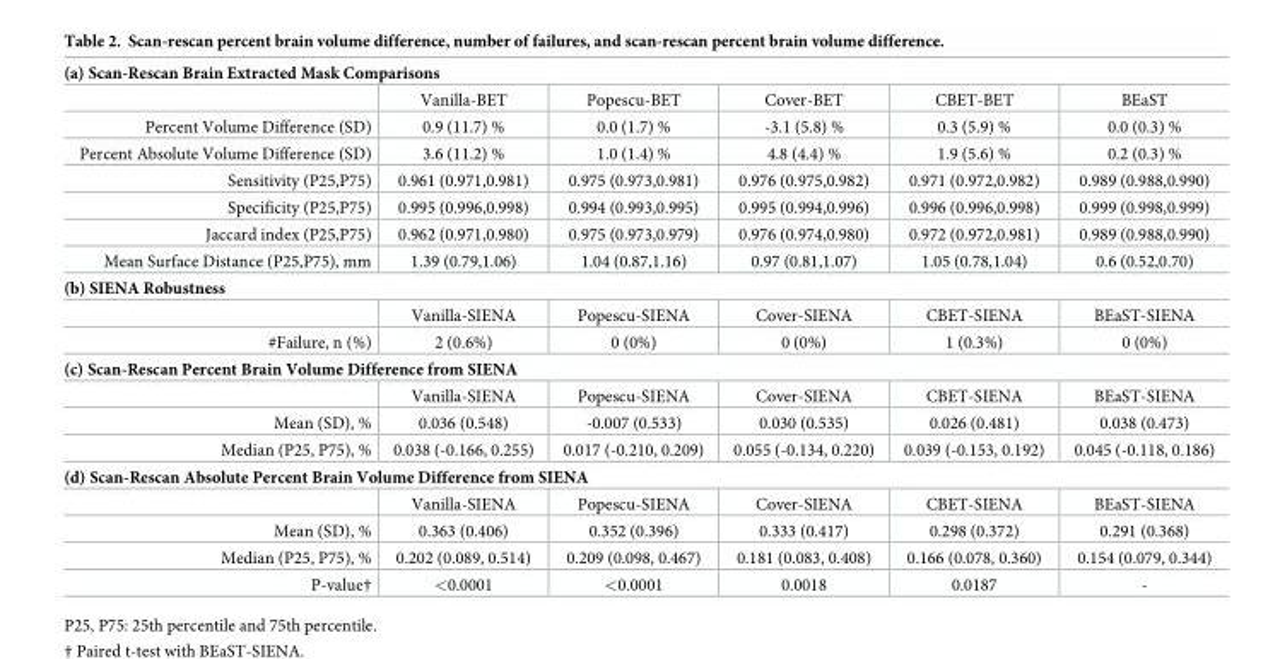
<table><tbody><tr><td colspan="6">(a) Scan-Rescan Brain Extracted Mask Comparisons</td></tr><tr><td></td><td>Vanilla-BET</td><td>Popescu-BET</td><td>Cover-BET</td><td>CBET-BET</td><td>BEaST</td></tr><tr><td>Percent Volume Difference (SD)</td><td>0.9 (11.7) %</td><td>0.0 (1.7) %</td><td>-3.1 (5.8) %</td><td>0.3 (5.9) %</td><td>0.0 (0.3) %</td></tr><tr><td>Percent Absolute Volume Difference (SD)</td><td>3.6 (11.2) %</td><td>1.0 (1.4) %</td><td>4.8 (4.4) %</td><td>1.9 (5.6) %</td><td>0.2 (0.3) %</td></tr><tr><td>Sensitivity (P25,P75)</td><td>0.961 (0.971,0.981)</td><td>0.975 (0.973,0.981)</td><td>0.976 (0.975,0.982)</td><td>0.971 (0.972,0.982)</td><td>0.989 (0.988,0.990)</td></tr><tr><td>Specificity (P25,P75)</td><td>0.995 (0.996,0.998)</td><td>0.994 (0.993,0.995)</td><td>0.995 (0.994,0.996)</td><td>0.996 (0.996,0.998)</td><td>0.999 (0.998,0.999)</td></tr><tr><td>Jaccard index (P25,P75)</td><td>0.962 (0.971,0.980)</td><td>0.975 (0.973,0.979)</td><td>0.976 (0.974,0.980)</td><td>0.972 (0.972,0.981)</td><td>0.989 (0.988,0.990)</td></tr><tr><td>Mean Surface Distance (P25,P75), mm</td><td>1.39 (0.79,1.06)</td><td>1.04 (0.87,1.16)</td><td>0.97 (0.81,1.07)</td><td>1.05 (0.78,1.04)</td><td>0.6 (0.52,0.70)</td></tr><tr><td colspan="6">(b) SIENA Robustness</td></tr><tr><td></td><td>Vanilla-SIENA</td><td>Popescu-SIENA</td><td>Cover-SIENA</td><td>CBET-SIENA</td><td>BEaST-SIENA</td></tr><tr><td>#Failure, n (%)</td><td>2 (0.6%)</td><td>0 (0%)</td><td>0 (0%)</td><td>1 (0.3%)</td><td>0 (0%)</td></tr><tr><td colspan="6">(c) Scan-Rescan Percent Brain Volume Difference from SIENA</td></tr><tr><td></td><td>Vanilla-SIENA</td><td>Popescu-SIENA</td><td>Cover-SIENA</td><td>CBET-SIENA</td><td>BEaST-SIENA</td></tr><tr><td>Mean (SD), %</td><td>0.036 (0.548)</td><td>-0.007 (0.533)</td><td>0.030 (0.535)</td><td>0.026 (0.481)</td><td>0.038 (0.473)</td></tr><tr><td>Median (P25, P75), %</td><td>0.038 (-0.166, 0.255)</td><td>0.017 (-0.210, 0.209)</td><td>0.055 (-0.134, 0.220)</td><td>0.039 (-0.153, 0.192)</td><td>0.045 (-0.118, 0.186)</td></tr><tr><td colspan="6">(d) Scan-Rescan Absolute Percent Brain Volume Difference from SIENA</td></tr><tr><td></td><td>Vanilla-SIENA</td><td>Popescu-SIENA</td><td>Cover-SIENA</td><td>CBET-SIENA</td><td>BEaST-SIENA</td></tr><tr><td>Mean (SD), %</td><td>0.363 (0.406)</td><td>0.352 (0.396)</td><td>0.333 (0.417)</td><td>0.298 (0.372)</td><td>0.291 (0.368)</td></tr><tr><td>Median (P25, P75), %</td><td>0.202 (0.089, 0.514)</td><td>0.209 (0.098, 0.467)</td><td>0.181 (0.083, 0.408)</td><td>0.166 (0.078, 0.360)</td><td>0.154 (0.079, 0.344)</td></tr><tr><td>P-value†</td><td>&lt;0.0001</td><td>&lt;0.0001</td><td>0.0018</td><td>0.0187</td><td>-</td></tr></tbody></table>